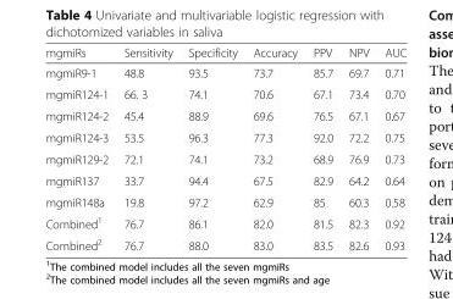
<table><thead><tr><td>mgmiRs</td><td>Sensitivity</td><td>Specificity</td><td>Accuracy</td><td>PPV</td><td>NPV</td><td>AUC</td></tr></thead><tbody><tr><td>mgmiR9-1</td><td>48.8</td><td>93.5</td><td>73.7</td><td>85.7</td><td>69.7</td><td>0.71</td></tr><tr><td>mgmiR124-1</td><td>66. 3</td><td>74.1</td><td>70.6</td><td>67.1</td><td>73.4</td><td>0.70</td></tr><tr><td>mgmiR124-2</td><td>45.4</td><td>88.9</td><td>69.6</td><td>76.5</td><td>67.1</td><td>0.67</td></tr><tr><td>mgmiR124-3</td><td>53.5</td><td>96.3</td><td>77.3</td><td>92.0</td><td>72.2</td><td>0.75</td></tr><tr><td>mgmiR129-2</td><td>72.1</td><td>74.1</td><td>73.2</td><td>68.9</td><td>76.9</td><td>0.73</td></tr><tr><td>mgmiR137</td><td>33.7</td><td>94.4</td><td>67.5</td><td>82.9</td><td>64.2</td><td>0.64</td></tr><tr><td>mgmiR148a</td><td>19.8</td><td>97.2</td><td>62.9</td><td>85</td><td>60.3</td><td>0.58</td></tr><tr><td>Combined<sup>1</sup></td><td>76.7</td><td>86.1</td><td>82.0</td><td>81.5</td><td>82.3</td><td>0.92</td></tr><tr><td>Combined<sup>2</sup></td><td>76.7</td><td>88.0</td><td>83.0</td><td>83.5</td><td>82.6</td><td>0.93</td></tr></tbody></table>